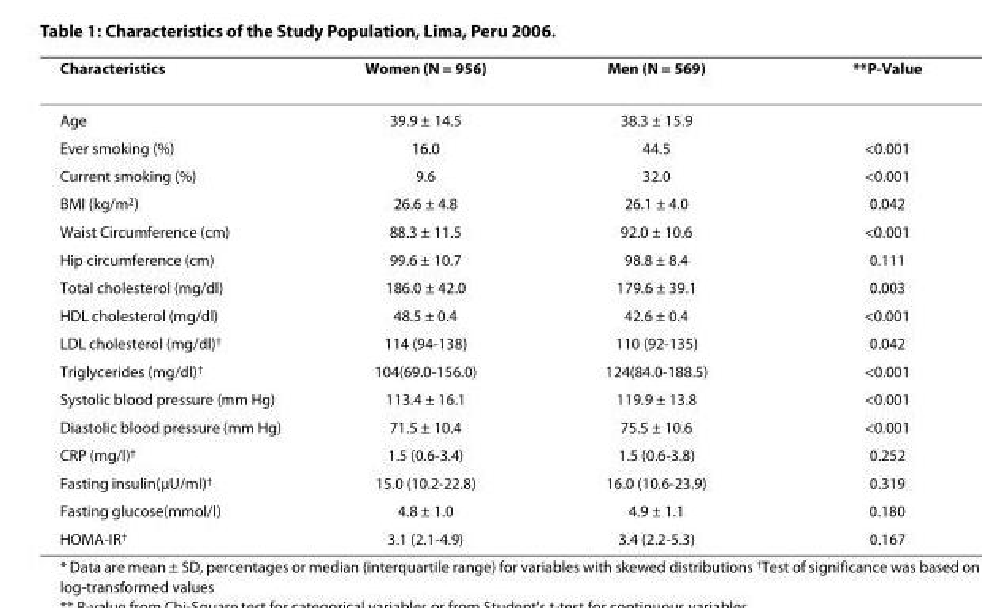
<table><thead><tr><td>Characteristics</td><td>Women (N = 956)</td><td>Men (N = 569)</td><td>**P-Value</td></tr></thead><tbody><tr><td>Age</td><td>39.9 ± 14.5</td><td>38.3 ± 15.9</td><td></td></tr><tr><td>Ever smoking (%)</td><td>16.0</td><td>44.5</td><td>&lt;0.001</td></tr><tr><td>Current smoking (%)</td><td>9.6</td><td>32.0</td><td>&lt;0.001</td></tr><tr><td>BMI (kg/m<sup>2</sup>)</td><td>26.6 ± 4.8</td><td>26.1 ± 4.0</td><td>0.042</td></tr><tr><td>Waist Circumference (cm)</td><td>88.3 ± 11.5</td><td>92.0 ± 10.6</td><td>&lt;0.001</td></tr><tr><td>Hip circumference (cm)</td><td>99.6 ± 10.7</td><td>98.8 ± 8.4</td><td>0.111</td></tr><tr><td>Total cholesterol (mg/dl)</td><td>186.0 ± 42.0</td><td>179.6 ± 39.1</td><td>0.003</td></tr><tr><td>HDL cholesterol (mg/dl)</td><td>48.5 ± 0.4</td><td>42.6 ± 0.4</td><td>&lt;0.001</td></tr><tr><td>LDL cholesterol (mg/dl)<sup>†</sup></td><td>114 (94-138)</td><td>110 (92-135)</td><td>0.042</td></tr><tr><td>Triglycerides (mg/dl)<sup>†</sup></td><td>104(69.0-156.0)</td><td>124(84.0-188.5)</td><td>&lt;0.001</td></tr><tr><td>Systolic blood pressure (mm Hg)</td><td>113.4 ± 16.1</td><td>119.9 ± 13.8</td><td>&lt;0.001</td></tr><tr><td>Diastolic blood pressure (mm Hg)</td><td>71.5 ± 10.4</td><td>75.5 ± 10.6</td><td>&lt;0.001</td></tr><tr><td>CRP (mg/l)<sup>†</sup></td><td>1.5 (0.6-3.4)</td><td>1.5 (0.6-3.8)</td><td>0.252</td></tr><tr><td>Fasting insulin(μU/ml)<sup>†</sup></td><td>15.0 (10.2-22.8)</td><td>16.0 (10.6-23.9)</td><td>0.319</td></tr><tr><td>Fasting glucose(mmol/l)</td><td>4.8 ± 1.0</td><td>4.9 ± 1.1</td><td>0.180</td></tr><tr><td>HOMA-IR<sup>†</sup></td><td>3.1 (2.1-4.9)</td><td>3.4 (2.2-5.3)</td><td>0.167</td></tr></tbody></table>